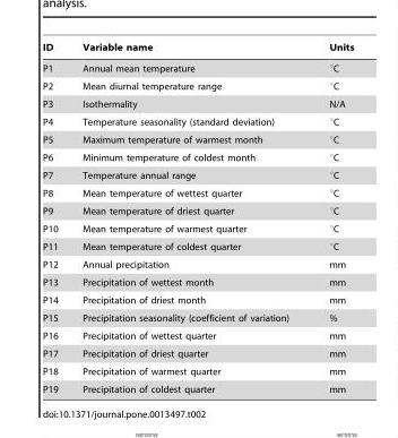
<table><thead><tr><td>ID</td><td>Variable name</td><td>Units</td></tr></thead><tbody><tr><td>P1</td><td>Annual mean temperature</td><td>°C</td></tr><tr><td>P2</td><td>Mean diurnal temperature range</td><td>°C</td></tr><tr><td>P3</td><td>Isothermality</td><td>N/A</td></tr><tr><td>P4</td><td>Temperature seasonality (standard deviation)</td><td>°C</td></tr><tr><td>P5</td><td>Maximum temperature of warmest month</td><td>°C</td></tr><tr><td>P6</td><td>Minimum temperature of coldest month</td><td>°C</td></tr><tr><td>P7</td><td>Temperature annual range</td><td>°C</td></tr><tr><td>P8</td><td>Mean temperature of wettest quarter</td><td>°C</td></tr><tr><td>P9</td><td>Mean temperature of driest quarter</td><td>°C</td></tr><tr><td>P10</td><td>Mean temperature of warmest quarter</td><td>°C</td></tr><tr><td>P11</td><td>Mean temperature of coldest quarter</td><td>°C</td></tr><tr><td>P12</td><td>Annual precipitation</td><td>mm</td></tr><tr><td>P13</td><td>Precipitation of wettest month</td><td>mm</td></tr><tr><td>P14</td><td>Precipitation of driest month</td><td>mm</td></tr><tr><td>P15</td><td>Precipitation seasonality (coefficient of variation)</td><td>%</td></tr><tr><td>P16</td><td>Precipitation of wettest quarter</td><td>mm</td></tr><tr><td>P17</td><td>Precipitation of driest quarter</td><td>mm</td></tr><tr><td>P18</td><td>Precipitation of warmest quarter</td><td>mm</td></tr><tr><td>P19</td><td>Precipitation of coldest quarter</td><td>mm</td></tr></tbody></table>